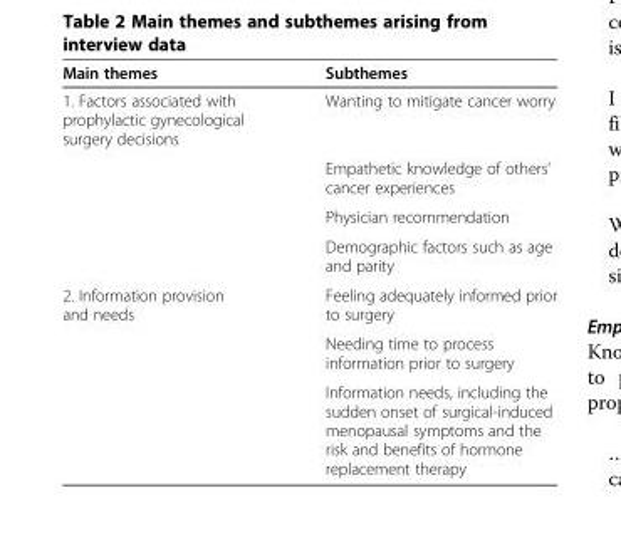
<table><thead><tr><td>Main themes</td><td>Subthemes</td></tr></thead><tbody><tr><td rowspan="4">1. Factors associated with prophylactic gynecological surgery decisions</td><td>Wanting to mitigate cancer worry</td></tr><tr><td>Empathetic knowledge of others’ cancer experiences</td></tr><tr><td>Physician recommendation</td></tr><tr><td>Demographic factors such as age and parity</td></tr><tr><td rowspan="3">2. Information provision and needs</td><td>Feeling adequately informed prior to surgery</td></tr><tr><td>Needing time to process information prior to surgery</td></tr><tr><td>Information needs, including the sudden onset of surgical-induced menopausal symptoms and the risk and benefits of hormone replacement therapy</td></tr></tbody></table>